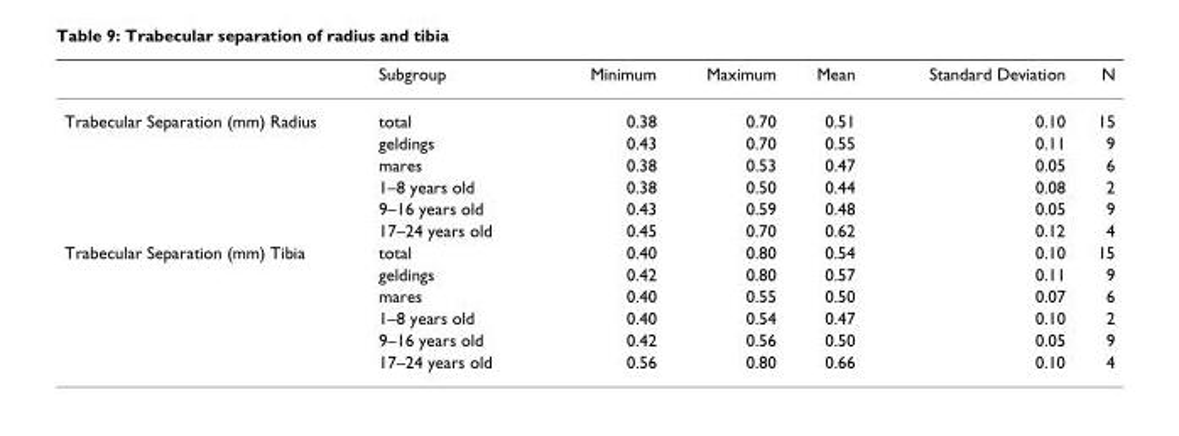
<table><thead><tr><td></td><td>Subgroup</td><td>Minimum</td><td>Maximum</td><td>Mean</td><td>Standard Deviation</td><td>N</td></tr></thead><tbody><tr><td rowspan="6">Trabecular Separation (mm) Radius</td><td>total</td><td>0.38</td><td>0.70</td><td>0.51</td><td>0.10</td><td>15</td></tr><tr><td>geldings</td><td>0.43</td><td>0.70</td><td>0.55</td><td>0.11</td><td>9</td></tr><tr><td>mares</td><td>0.38</td><td>0.53</td><td>0.47</td><td>0.05</td><td>6</td></tr><tr><td>1–8 years old</td><td>0.38</td><td>0.50</td><td>0.44</td><td>0.08</td><td>2</td></tr><tr><td>9–16 years old</td><td>0.43</td><td>0.59</td><td>0.48</td><td>0.05</td><td>9</td></tr><tr><td>17–24 years old</td><td>0.45</td><td>0.70</td><td>0.62</td><td>0.12</td><td>4</td></tr><tr><td rowspan="6">Trabecular Separation (mm) Tibia</td><td>total</td><td>0.40</td><td>0.80</td><td>0.54</td><td>0.10</td><td>15</td></tr><tr><td>geldings</td><td>0.42</td><td>0.80</td><td>0.57</td><td>0.11</td><td>9</td></tr><tr><td>mares</td><td>0.40</td><td>0.55</td><td>0.50</td><td>0.07</td><td>6</td></tr><tr><td>1–8 years old</td><td>0.40</td><td>0.54</td><td>0.47</td><td>0.10</td><td>2</td></tr><tr><td>9–16 years old</td><td>0.42</td><td>0.56</td><td>0.50</td><td>0.05</td><td>9</td></tr><tr><td>17–24 years old</td><td>0.56</td><td>0.80</td><td>0.66</td><td>0.10</td><td>4</td></tr></tbody></table>